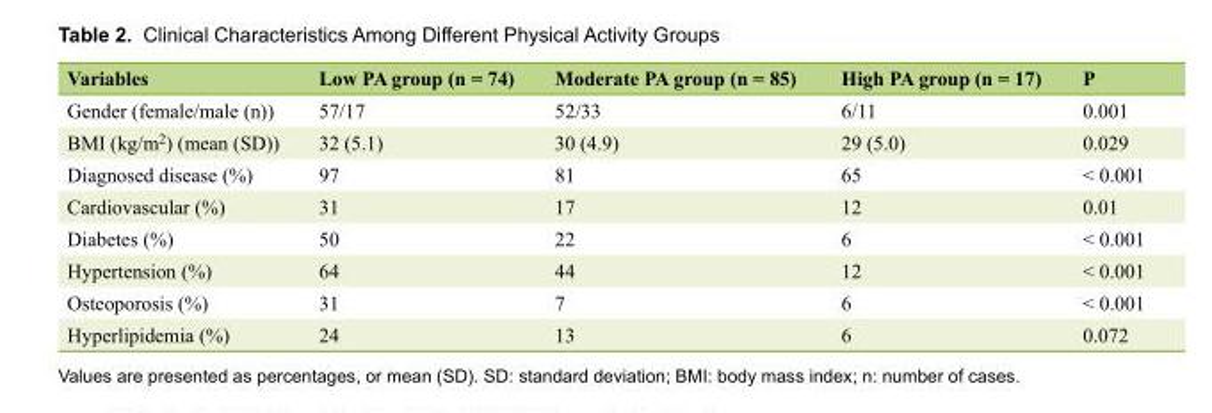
<table><thead><tr><td>Variables</td><td>Low PA group (n = 74)</td><td>Moderate PA group (n = 85)</td><td>High PA group (n = 17)</td><td>P</td></tr></thead><tbody><tr><td>Gender (female/male (n))</td><td>57/17</td><td>52/33</td><td>6/11</td><td>0.001</td></tr><tr><td>BMI (kg/m<sup>2</sup>) (mean (SD))</td><td>32 (5.1)</td><td>30 (4.9)</td><td>29 (5.0)</td><td>0.029</td></tr><tr><td>Diagnosed disease (%)</td><td>97</td><td>81</td><td>65</td><td>&lt; 0.001</td></tr><tr><td>Cardiovascular (%)</td><td>31</td><td>17</td><td>12</td><td>0.01</td></tr><tr><td>Diabetes (%)</td><td>50</td><td>22</td><td>6</td><td>&lt; 0.001</td></tr><tr><td>Hypertension (%)</td><td>64</td><td>44</td><td>12</td><td>&lt; 0.001</td></tr><tr><td>Osteoporosis (%)</td><td>31</td><td>7</td><td>6</td><td>&lt; 0.001</td></tr><tr><td>Hyperlipidemia (%)</td><td>24</td><td>13</td><td>6</td><td>0.072</td></tr></tbody></table>